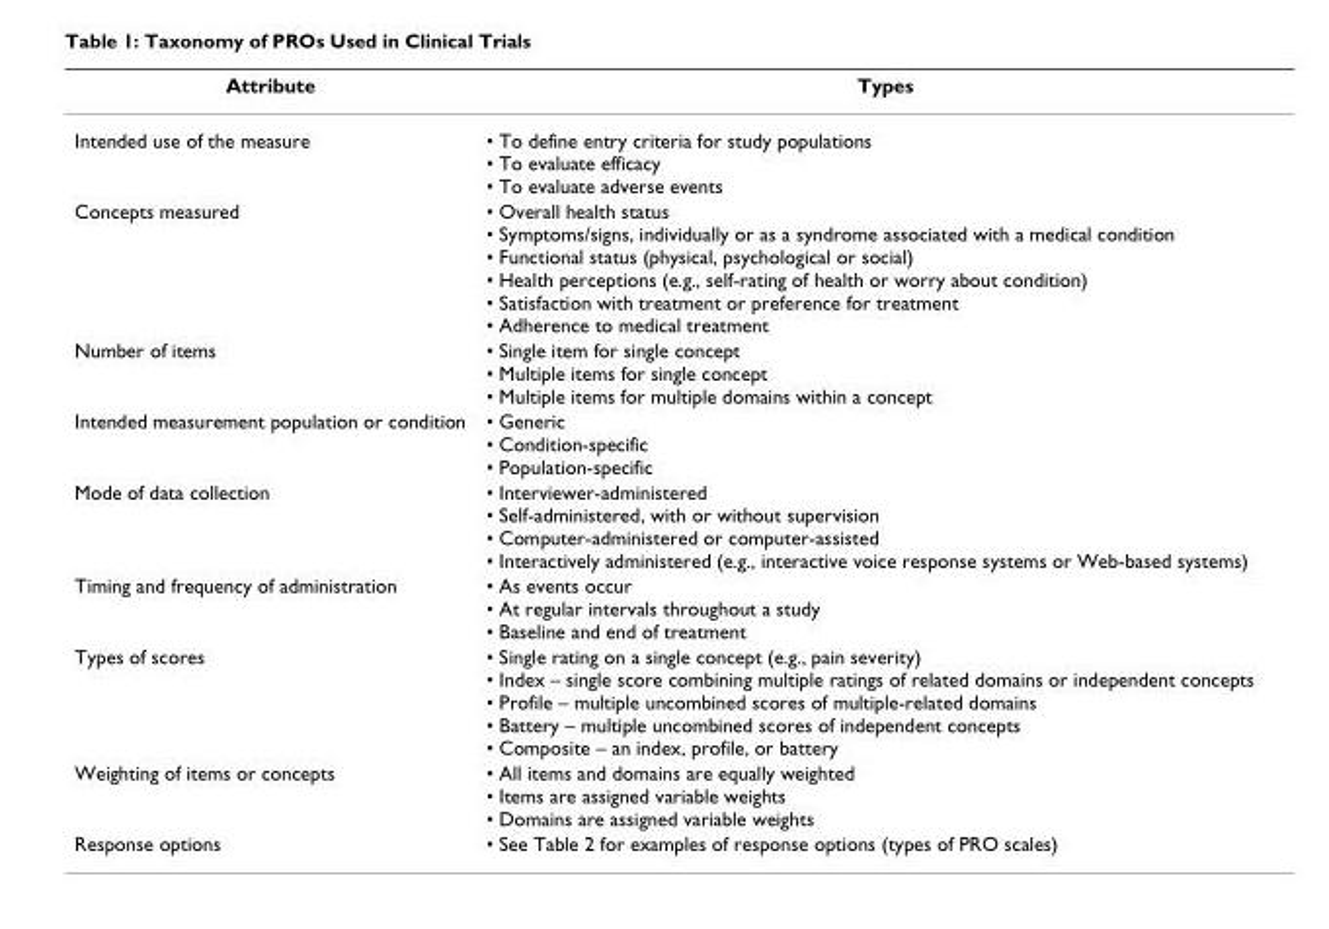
<table><thead><tr><td>Attribute</td><td>Types</td></tr></thead><tbody><tr><td>Intended use of the measure</td><td>• To define entry criteria for study populations • To evaluate efficacy • To evaluate adverse events</td></tr><tr><td>Concepts measured</td><td>• Overall health status • Symptoms/signs, individually or as a syndrome associated with a medical condition • Functional status (physical, psychological or social) • Health perceptions (e.g., self-rating of health or worry about condition) • Satisfaction with treatment or preference for treatment • Adherence to medical treatment</td></tr><tr><td>Number of items</td><td>• Single item for single concept • Multiple items for single concept • Multiple items for multiple domains within a concept</td></tr><tr><td>Intended measurement population or condition</td><td>• Generic • Condition-specific • Population-specific</td></tr><tr><td>Mode of data collection</td><td>• Interviewer-administered • Self-administered, with or without supervision • Computer-administered or computer-assisted • Interactively administered (e.g., interactive voice response systems or Web-based systems)</td></tr><tr><td>Timing and frequency of administration</td><td>• As events occur • At regular intervals throughout a study • Baseline and end of treatment</td></tr><tr><td>Types of scores</td><td>• Single rating on a single concept (e.g., pain severity) • Index – single score combining multiple ratings of related domains or independent concepts • Profile – multiple uncombined scores of multiple-related domains • Battery – multiple uncombined scores of independent concepts • Composite – an index, profile, or battery</td></tr><tr><td>Weighting of items or concepts</td><td>• All items and domains are equally weighted • Items are assigned variable weights • Domains are assigned variable weights</td></tr><tr><td>Response options</td><td>• See Table 2 for examples of response options (types of PRO scales)</td></tr></tbody></table>